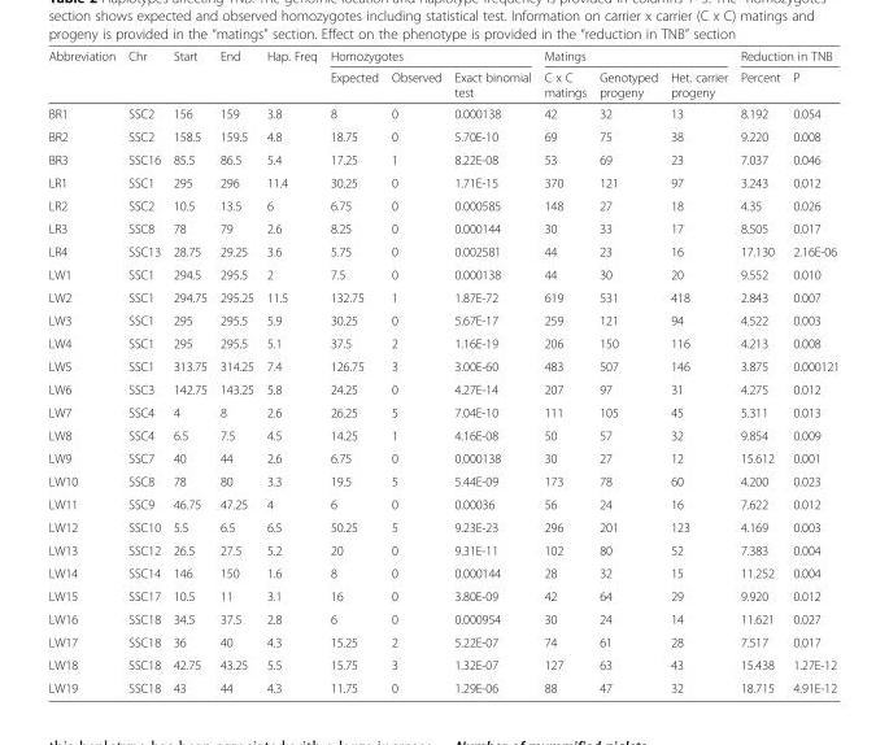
<table><thead><tr><td rowspan="2">Abbreviation</td><td rowspan="2">Chr</td><td rowspan="2">Start</td><td rowspan="2">End</td><td rowspan="2">Hap. Freq</td><td colspan="3">Homozygotes</td><td colspan="3">Matings</td><td colspan="2">Reduction in TNB</td></tr><tr><td>Expected</td><td>Observed</td><td>Exact binomial test</td><td>C x C matings</td><td>Genotyped progeny</td><td>Het. carrier progeny</td><td>Percent</td><td>P</td></tr></thead><tbody><tr><td>BR1</td><td>SSC2</td><td>156</td><td>159</td><td>3.8</td><td>8</td><td>0</td><td>0.000138</td><td>42</td><td>32</td><td>13</td><td>8.192</td><td>0.054</td></tr><tr><td>BR2</td><td>SSC2</td><td>158.5</td><td>159.5</td><td>4.8</td><td>18.75</td><td>0</td><td>5.70E-10</td><td>69</td><td>75</td><td>38</td><td>9.220</td><td>0.008</td></tr><tr><td>BR3</td><td>SSC16</td><td>85.5</td><td>86.5</td><td>5.4</td><td>17.25</td><td>1</td><td>8.22E-08</td><td>53</td><td>69</td><td>23</td><td>7.037</td><td>0.046</td></tr><tr><td>LR1</td><td>SSC1</td><td>295</td><td>296</td><td>11.4</td><td>30.25</td><td>0</td><td>1.71E-15</td><td>370</td><td>121</td><td>97</td><td>3.243</td><td>0.012</td></tr><tr><td>LR2</td><td>SSC2</td><td>10.5</td><td>13.5</td><td>6</td><td>6.75</td><td>0</td><td>0.000585</td><td>148</td><td>27</td><td>18</td><td>4.35</td><td>0.026</td></tr><tr><td>LR3</td><td>SSC8</td><td>78</td><td>79</td><td>2.6</td><td>8.25</td><td>0</td><td>0.000144</td><td>30</td><td>33</td><td>17</td><td>8.505</td><td>0.017</td></tr><tr><td>LR4</td><td>SSC13</td><td>28.75</td><td>29.25</td><td>3.6</td><td>5.75</td><td>0</td><td>0.002581</td><td>44</td><td>23</td><td>16</td><td>17.130</td><td>2.16E-06</td></tr><tr><td>LW1</td><td>SSC1</td><td>294.5</td><td>295.5</td><td>2</td><td>7.5</td><td>0</td><td>0.000138</td><td>44</td><td>30</td><td>20</td><td>9.552</td><td>0.010</td></tr><tr><td>LW2</td><td>SSC1</td><td>294.75</td><td>295.25</td><td>11.5</td><td>132.75</td><td>1</td><td>1.87E-72</td><td>619</td><td>531</td><td>418</td><td>2.843</td><td>0.007</td></tr><tr><td>LW3</td><td>SSC1</td><td>295</td><td>295.5</td><td>5.9</td><td>30.25</td><td>0</td><td>5.67E-17</td><td>259</td><td>121</td><td>94</td><td>4.522</td><td>0.003</td></tr><tr><td>LW4</td><td>SSC1</td><td>295</td><td>295.5</td><td>5.1</td><td>37.5</td><td>2</td><td>1.16E-19</td><td>206</td><td>150</td><td>116</td><td>4.213</td><td>0.008</td></tr><tr><td>LW5</td><td>SSC1</td><td>313.75</td><td>314.25</td><td>7.4</td><td>126.75</td><td>3</td><td>3.00E-60</td><td>483</td><td>507</td><td>146</td><td>3.875</td><td>0.000121</td></tr><tr><td>LW6</td><td>SSC3</td><td>142.75</td><td>143.25</td><td>5.8</td><td>24.25</td><td>0</td><td>4.27E-14</td><td>207</td><td>97</td><td>31</td><td>4.275</td><td>0.012</td></tr><tr><td>LW7</td><td>SSC4</td><td>4</td><td>8</td><td>2.6</td><td>26.25</td><td>5</td><td>7.04E-10</td><td>111</td><td>105</td><td>45</td><td>5.311</td><td>0.013</td></tr><tr><td>LW8</td><td>SSC4</td><td>6.5</td><td>7.5</td><td>4.5</td><td>14.25</td><td>1</td><td>4.16E-08</td><td>50</td><td>57</td><td>32</td><td>9.854</td><td>0.009</td></tr><tr><td>LW9</td><td>SSC7</td><td>40</td><td>44</td><td>2.6</td><td>6.75</td><td>0</td><td>0.000138</td><td>30</td><td>27</td><td>12</td><td>15.612</td><td>0.001</td></tr><tr><td>LW10</td><td>SSC8</td><td>78</td><td>80</td><td>3.3</td><td>19.5</td><td>5</td><td>5.44E-09</td><td>173</td><td>78</td><td>60</td><td>4.200</td><td>0.023</td></tr><tr><td>LW11</td><td>SSC9</td><td>46.75</td><td>47.25</td><td>4</td><td>6</td><td>0</td><td>0.00036</td><td>56</td><td>24</td><td>16</td><td>7.622</td><td>0.012</td></tr><tr><td>LW12</td><td>SSC10</td><td>5.5</td><td>6.5</td><td>6.5</td><td>50.25</td><td>5</td><td>9.23E-23</td><td>296</td><td>201</td><td>123</td><td>4.169</td><td>0.003</td></tr><tr><td>LW13</td><td>SSC12</td><td>26.5</td><td>27.5</td><td>5.2</td><td>20</td><td>0</td><td>9.31E-11</td><td>102</td><td>80</td><td>52</td><td>7.383</td><td>0.004</td></tr><tr><td>LW14</td><td>SSC14</td><td>146</td><td>150</td><td>1.6</td><td>8</td><td>0</td><td>0.000144</td><td>28</td><td>32</td><td>15</td><td>11.252</td><td>0.004</td></tr><tr><td>LW15</td><td>SSC17</td><td>10.5</td><td>11</td><td>3.1</td><td>16</td><td>0</td><td>3.80E-09</td><td>42</td><td>64</td><td>29</td><td>9.920</td><td>0.012</td></tr><tr><td>LW16</td><td>SSC18</td><td>34.5</td><td>37.5</td><td>2.8</td><td>6</td><td>0</td><td>0.000954</td><td>30</td><td>24</td><td>14</td><td>11.621</td><td>0.027</td></tr><tr><td>LW17</td><td>SSC18</td><td>36</td><td>40</td><td>4.3</td><td>15.25</td><td>2</td><td>5.22E-07</td><td>74</td><td>61</td><td>28</td><td>7.517</td><td>0.017</td></tr><tr><td>LW18</td><td>SSC18</td><td>42.75</td><td>43.25</td><td>5.5</td><td>15.75</td><td>3</td><td>1.32E-07</td><td>127</td><td>63</td><td>43</td><td>15.438</td><td>1.27E-12</td></tr><tr><td>LW19</td><td>SSC18</td><td>43</td><td>44</td><td>4.3</td><td>11.75</td><td>0</td><td>1.29E-06</td><td>88</td><td>47</td><td>32</td><td>18.715</td><td>4.91E-12</td></tr></tbody></table>